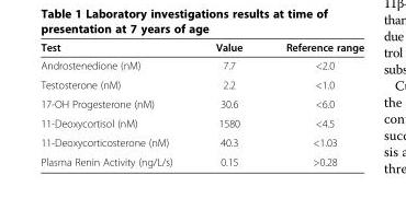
<table><thead><tr><td>Test</td><td>Value</td><td>Reference range</td></tr></thead><tbody><tr><td>Androstenedione (nM)</td><td>7.7</td><td>&lt;2.0</td></tr><tr><td>Testosterone (nM)</td><td>2.2</td><td>&lt;1.0</td></tr><tr><td>17-OH Progesterone (nM)</td><td>30.6</td><td>&lt;6.0</td></tr><tr><td>11-Deoxycortisol (nM)</td><td>1580</td><td>&lt;4.5</td></tr><tr><td>11-Deoxycorticosterone (nM)</td><td>40.3</td><td>&lt;1.03</td></tr><tr><td>Plasma Renin Activity (ng/L/s)</td><td>0.15</td><td>&gt;0.28</td></tr></tbody></table>